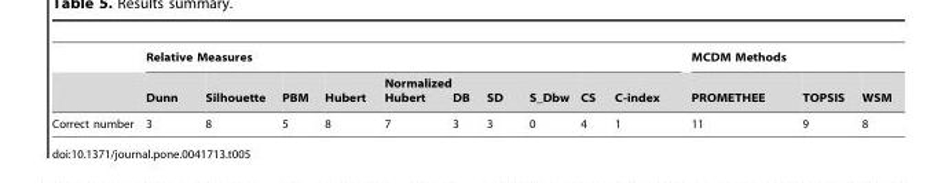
<table><thead><tr><td rowspan="2"></td><td colspan="10">Relative Measures</td><td colspan="3">MCDM Methods</td></tr><tr><td>Dunn</td><td>Silhouette</td><td>PBM</td><td>Hubert</td><td>Normalized Hubert</td><td>DB</td><td>SD</td><td>S_Dbw</td><td>CS</td><td>C-index</td><td>PROMETHEE</td><td>TOPSIS</td><td>WSM</td></tr></thead><tbody><tr><td>Correct number</td><td>3</td><td>8</td><td>5</td><td>8</td><td>7</td><td>3</td><td>3</td><td>0</td><td>4</td><td>1</td><td>11</td><td>9</td><td>8</td></tr></tbody></table>